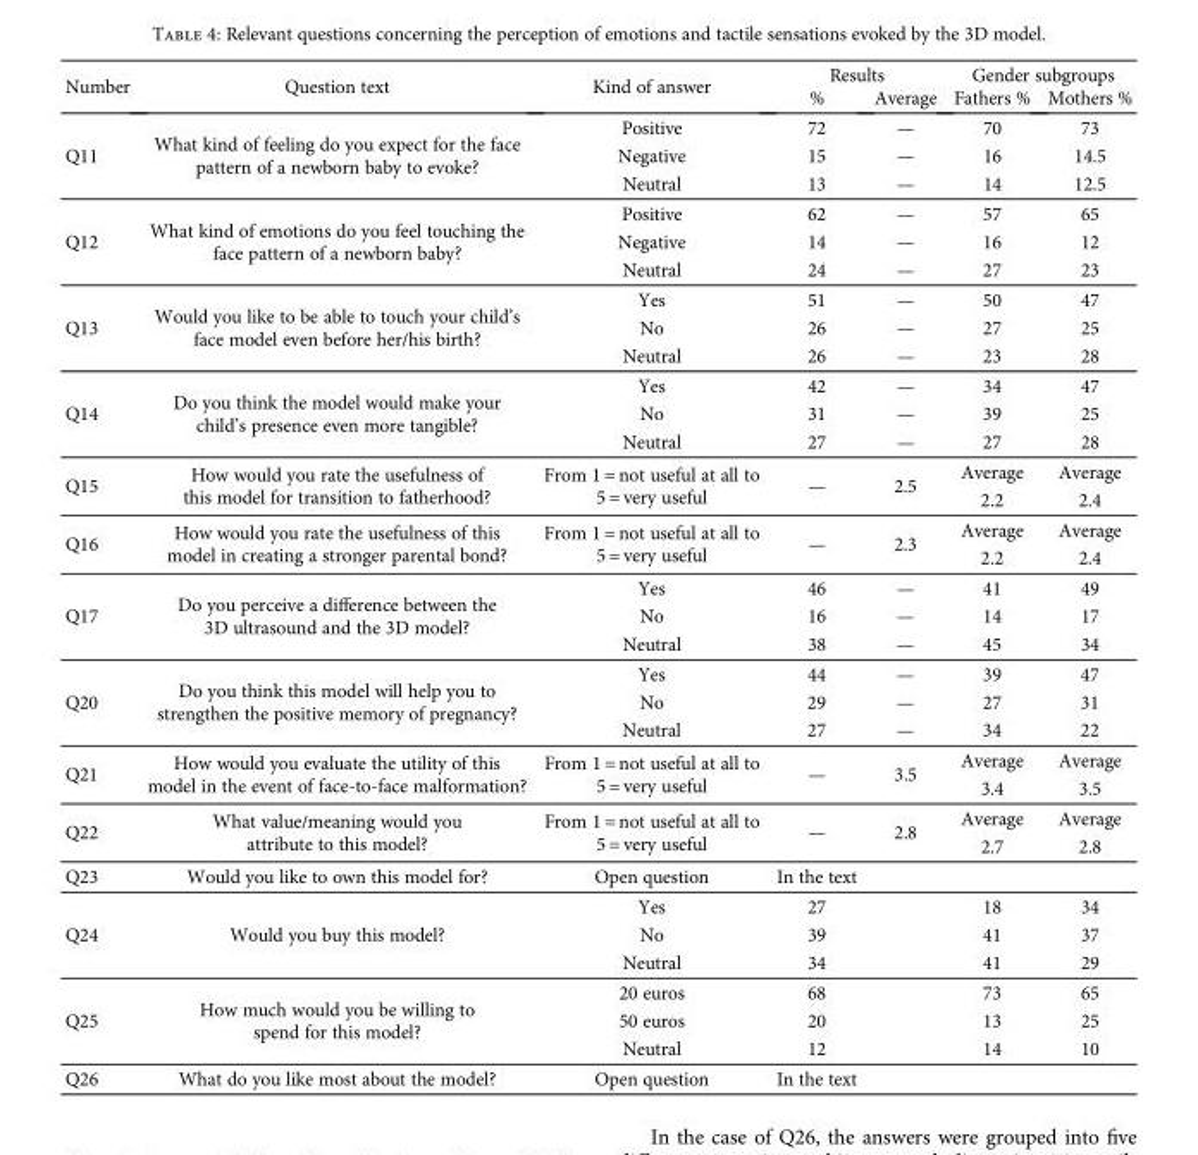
<table><thead><tr><td rowspan="2">Number</td><td rowspan="2">Question text</td><td rowspan="2">Kind of answer</td><td colspan="2">Results</td><td colspan="2">Gender subgroups</td></tr><tr><td>%</td><td>Average</td><td>Fathers %</td><td>Mothers %</td></tr></thead><tbody><tr><td rowspan="3">Q11</td><td rowspan="3">What kind of feeling do you expect for the face pattern of a newborn baby to evoke?</td><td>Positive</td><td>72</td><td>—</td><td>70</td><td>73</td></tr><tr><td>Negative</td><td>15</td><td>—</td><td>16</td><td>14.5</td></tr><tr><td>Neutral</td><td>13</td><td>—</td><td>14</td><td>12.5</td></tr><tr><td rowspan="3">Q12</td><td rowspan="3">What kind of emotions do you feel touching the face pattern of a newborn baby?</td><td>Positive</td><td>62</td><td>—</td><td>57</td><td>65</td></tr><tr><td>Negative</td><td>14</td><td>—</td><td>16</td><td>12</td></tr><tr><td>Neutral</td><td>24</td><td>—</td><td>27</td><td>23</td></tr><tr><td rowspan="3">Q13</td><td rowspan="3">Would you like to be able to touch your child’s face model even before her/his birth?</td><td>Yes</td><td>51</td><td>—</td><td>50</td><td>47</td></tr><tr><td>No</td><td>26</td><td>—</td><td>27</td><td>25</td></tr><tr><td>Neutral</td><td>26</td><td>—</td><td>23</td><td>28</td></tr><tr><td rowspan="3">Q14</td><td rowspan="3">Do you think the model would make your child’s presence even more tangible?</td><td>Yes</td><td>42</td><td>—</td><td>34</td><td>47</td></tr><tr><td>No</td><td>31</td><td>—</td><td>39</td><td>25</td></tr><tr><td>Neutral</td><td>27</td><td>—</td><td>27</td><td>28</td></tr><tr><td rowspan="2">Q15</td><td rowspan="2">How would you rate the usefulness of this model for transition to fatherhood?</td><td rowspan="2">From 1 = not useful at all to 5 = very useful</td><td rowspan="2">—</td><td rowspan="2">2.5</td><td>Average</td><td>Average</td></tr><tr><td>2.2</td><td>2.4</td></tr><tr><td rowspan="2">Q16</td><td rowspan="2">How would you rate the usefulness of this model in creating a stronger parental bond?</td><td rowspan="2">From 1 = not useful at all to 5 = very useful</td><td rowspan="2">—</td><td rowspan="2">2.3</td><td>Average</td><td>Average</td></tr><tr><td>2.2</td><td>2.4</td></tr><tr><td rowspan="3">Q17</td><td rowspan="3">Do you perceive a difference between the 3D ultrasound and the 3D model?</td><td>Yes</td><td>46</td><td>—</td><td>41</td><td>49</td></tr><tr><td>No</td><td>16</td><td>—</td><td>14</td><td>17</td></tr><tr><td>Neutral</td><td>38</td><td>—</td><td>45</td><td>34</td></tr><tr><td rowspan="3">Q20</td><td rowspan="3">Do you think this model will help you to strengthen the positive memory of pregnancy?</td><td>Yes</td><td>44</td><td>—</td><td>39</td><td>47</td></tr><tr><td>No</td><td>29</td><td>—</td><td>27</td><td>31</td></tr><tr><td>Neutral</td><td>27</td><td>—</td><td>34</td><td>22</td></tr><tr><td rowspan="2">Q21</td><td rowspan="2">How would you evaluate the utility of this model in the event of face-to-face malformation?</td><td rowspan="2">From 1 = not useful at all to 5 = very useful</td><td rowspan="2">—</td><td rowspan="2">3.5</td><td>Average</td><td>Average</td></tr><tr><td>3.4</td><td>3.5</td></tr><tr><td rowspan="2">Q22</td><td rowspan="2">What value/meaning would you attribute to this model?</td><td rowspan="2">From 1 = not useful at all to 5 = very useful</td><td rowspan="2">—</td><td rowspan="2">2.8</td><td>Average</td><td>Average</td></tr><tr><td>2.7</td><td>2.8</td></tr><tr><td>Q23</td><td>Would you like to own this model for?</td><td>Open question</td><td>In the text</td><td></td><td></td><td></td></tr><tr><td rowspan="3">Q24</td><td rowspan="3">Would you buy this model?</td><td>Yes</td><td>27</td><td></td><td>18</td><td>34</td></tr><tr><td>No</td><td>39</td><td></td><td>41</td><td>37</td></tr><tr><td>Neutral</td><td>34</td><td></td><td>41</td><td>29</td></tr><tr><td rowspan="3">Q25</td><td rowspan="3">How much would you be willing to spend for this model?</td><td>20 euros</td><td>68</td><td></td><td>73</td><td>65</td></tr><tr><td>50 euros</td><td>20</td><td></td><td>13</td><td>25</td></tr><tr><td>Neutral</td><td>12</td><td></td><td>14</td><td>10</td></tr><tr><td>Q26</td><td>What do you like most about the model?</td><td>Open question</td><td>In the text</td><td></td><td></td><td></td></tr></tbody></table>